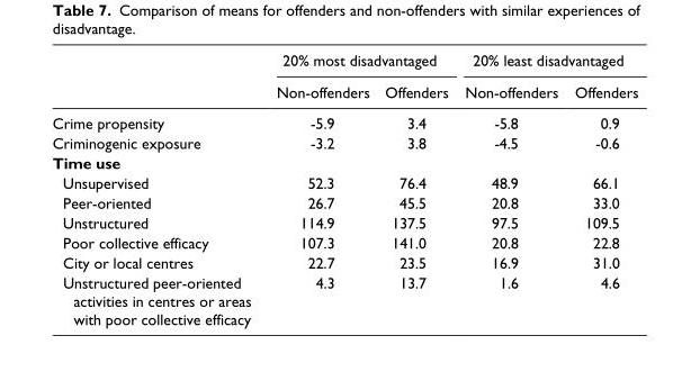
<table><thead><tr><td rowspan="2"></td><td colspan="2">20% most disadvantaged</td><td colspan="2">20% least disadvantaged</td></tr><tr><td>Non-offenders</td><td>Offenders</td><td>Non-offenders</td><td>Offenders</td></tr></thead><tbody><tr><td>Crime propensity</td><td>-5.9</td><td>3.4</td><td>-5.8</td><td>0.9</td></tr><tr><td>Criminogenic exposure</td><td>-3.2</td><td>3.8</td><td>-4.5</td><td>-0.6</td></tr><tr><td colspan="5">Time use</td></tr><tr><td>Unsupervised</td><td>52.3</td><td>76.4</td><td>48.9</td><td>66.1</td></tr><tr><td>Peer-oriented</td><td>26.7</td><td>45.5</td><td>20.8</td><td>33.0</td></tr><tr><td>Unstructured</td><td>114.9</td><td>137.5</td><td>97.5</td><td>109.5</td></tr><tr><td>Poor collective efficacy</td><td>107.3</td><td>141.0</td><td>20.8</td><td>22.8</td></tr><tr><td>City or local centres</td><td>22.7</td><td>23.5</td><td>16.9</td><td>31.0</td></tr><tr><td>Unstructured peer-oriented activities in centres or areas with poor collective efficacy</td><td>4.3</td><td>13.7</td><td>1.6</td><td>4.6</td></tr></tbody></table>